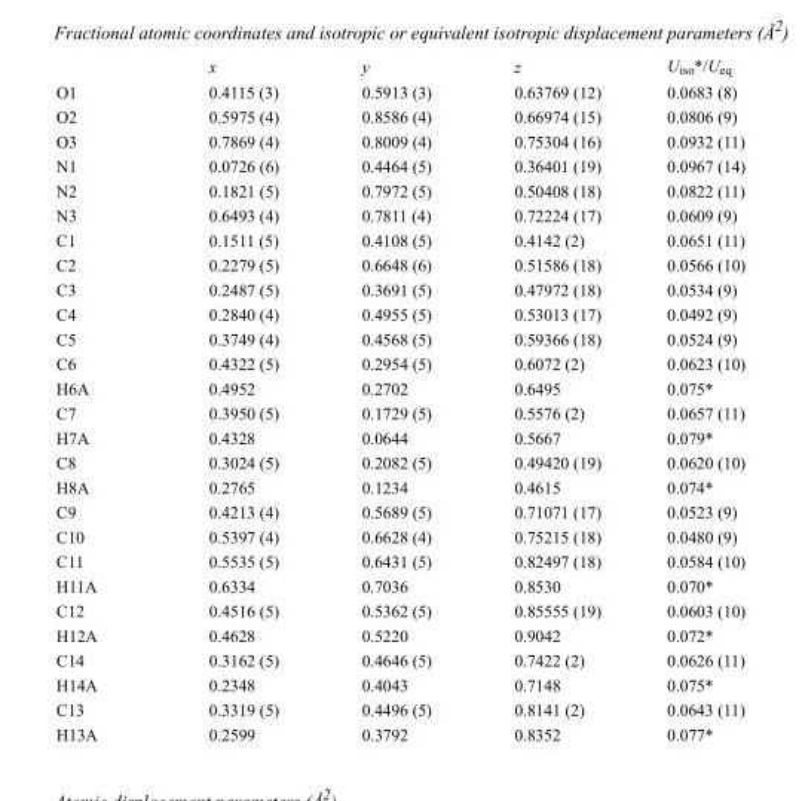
<table><thead><tr><td></td><td>x</td><td>y</td><td>z</td><td>U<sub>iso</sub>*/U<sub>eq</sub></td></tr></thead><tbody><tr><td>O1</td><td>0.4115 (3)</td><td>0.5913 (3)</td><td>0.63769 (12)</td><td>0.0683 (8)</td></tr><tr><td>O2</td><td>0.5975 (4)</td><td>0.8586 (4)</td><td>0.66974 (15)</td><td>0.0806 (9)</td></tr><tr><td>O3</td><td>0.7869 (4)</td><td>0.8009 (4)</td><td>0.75304 (16)</td><td>0.0932 (11)</td></tr><tr><td>N1</td><td>0.0726 (6)</td><td>0.4464 (5)</td><td>0.36401 (19)</td><td>0.0967 (14)</td></tr><tr><td>N2</td><td>0.1821 (5)</td><td>0.7972 (5)</td><td>0.50408 (18)</td><td>0.0822 (11)</td></tr><tr><td>N3</td><td>0.6493 (4)</td><td>0.7811 (4)</td><td>0.72224 (17)</td><td>0.0609 (9)</td></tr><tr><td>C1</td><td>0.1511 (5)</td><td>0.4108 (5)</td><td>0.4142 (2)</td><td>0.0651 (11)</td></tr><tr><td>C2</td><td>0.2279 (5)</td><td>0.6648 (6)</td><td>0.51586 (18)</td><td>0.0566 (10)</td></tr><tr><td>C3</td><td>0.2487 (5)</td><td>0.3691 (5)</td><td>0.47972 (18)</td><td>0.0534 (9)</td></tr><tr><td>C4</td><td>0.2840 (4)</td><td>0.4955 (5)</td><td>0.53013 (17)</td><td>0.0492 (9)</td></tr><tr><td>C5</td><td>0.3749 (4)</td><td>0.4568 (5)</td><td>0.59366 (18)</td><td>0.0524 (9)</td></tr><tr><td>C6</td><td>0.4322 (5)</td><td>0.2954 (5)</td><td>0.6072 (2)</td><td>0.0623 (10)</td></tr><tr><td>H6A</td><td>0.4952</td><td>0.2702</td><td>0.6495</td><td>0.075*</td></tr><tr><td>C7</td><td>0.3950 (5)</td><td>0.1729 (5)</td><td>0.5576 (2)</td><td>0.0657 (11)</td></tr><tr><td>H7A</td><td>0.4328</td><td>0.0644</td><td>0.5667</td><td>0.079*</td></tr><tr><td>C8</td><td>0.3024 (5)</td><td>0.2082 (5)</td><td>0.49420 (19)</td><td>0.0620 (10)</td></tr><tr><td>H8A</td><td>0.2765</td><td>0.1234</td><td>0.4615</td><td>0.074*</td></tr><tr><td>C9</td><td>0.4213 (4)</td><td>0.5689 (5)</td><td>0.71071 (17)</td><td>0.0523 (9)</td></tr><tr><td>C10</td><td>0.5397 (4)</td><td>0.6628 (4)</td><td>0.75215 (18)</td><td>0.0480 (9)</td></tr><tr><td>C11</td><td>0.5535 (5)</td><td>0.6431 (5)</td><td>0.82497 (18)</td><td>0.0584 (10)</td></tr><tr><td>H11A</td><td>0.6334</td><td>0.7036</td><td>0.8530</td><td>0.070*</td></tr><tr><td>C12</td><td>0.4516 (5)</td><td>0.5362 (5)</td><td>0.85555 (19)</td><td>0.0603 (10)</td></tr><tr><td>H12A</td><td>0.4628</td><td>0.5220</td><td>0.9042</td><td>0.072*</td></tr><tr><td>C14</td><td>0.3162 (5)</td><td>0.4646 (5)</td><td>0.7422 (2)</td><td>0.0626 (11)</td></tr><tr><td>H14A</td><td>0.2348</td><td>0.4043</td><td>0.7148</td><td>0.075*</td></tr><tr><td>C13</td><td>0.3319 (5)</td><td>0.4496 (5)</td><td>0.8141 (2)</td><td>0.0643 (11)</td></tr><tr><td>H13A</td><td>0.2599</td><td>0.3792</td><td>0.8352</td><td>0.077*</td></tr></tbody></table>